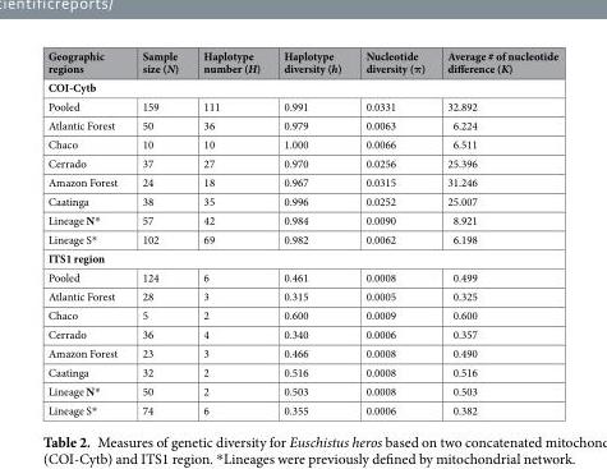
<table><thead><tr><td>Geographic regions</td><td>Sample size (N)</td><td>Haplotype number (H)</td><td>Haplotype diversity (h)</td><td>Nucleotide diversity (π)</td><td>Average # of nucleotide difference (K)</td></tr></thead><tbody><tr><td colspan="6">COI-Cytb</td></tr><tr><td>Pooled</td><td>159</td><td>111</td><td>0.991</td><td>0.0331</td><td>32.892</td></tr><tr><td>Atlantic Forest</td><td>50</td><td>36</td><td>0.979</td><td>0.0063</td><td>6.224</td></tr><tr><td>Chaco</td><td>10</td><td>10</td><td>1.000</td><td>0.0066</td><td>6.511</td></tr><tr><td>Cerrado</td><td>37</td><td>27</td><td>0.970</td><td>0.0256</td><td>25.396</td></tr><tr><td>Amazon Forest</td><td>24</td><td>18</td><td>0.967</td><td>0.0315</td><td>31.246</td></tr><tr><td>Caatinga</td><td>38</td><td>35</td><td>0.996</td><td>0.0252</td><td>25.007</td></tr><tr><td>Lineage N*</td><td>57</td><td>42</td><td>0.984</td><td>0.0090</td><td>8.921</td></tr><tr><td>Lineage S*</td><td>102</td><td>69</td><td>0.982</td><td>0.0062</td><td>6.198</td></tr><tr><td colspan="6">ITS1 region</td></tr><tr><td>Pooled</td><td>124</td><td>6</td><td>0.461</td><td>0.0008</td><td>0.499</td></tr><tr><td>Atlantic Forest</td><td>28</td><td>3</td><td>0.315</td><td>0.0005</td><td>0.325</td></tr><tr><td>Chaco</td><td>5</td><td>2</td><td>0.600</td><td>0.0009</td><td>0.600</td></tr><tr><td>Cerrado</td><td>36</td><td>4</td><td>0.340</td><td>0.0006</td><td>0.357</td></tr><tr><td>Amazon Forest</td><td>23</td><td>3</td><td>0.466</td><td>0.0008</td><td>0.490</td></tr><tr><td>Caatinga</td><td>32</td><td>2</td><td>0.516</td><td>0.0008</td><td>0.516</td></tr><tr><td>Lineage N*</td><td>50</td><td>2</td><td>0.503</td><td>0.0008</td><td>0.503</td></tr><tr><td>Lineage S*</td><td>74</td><td>6</td><td>0.355</td><td>0.0006</td><td>0.382</td></tr></tbody></table>